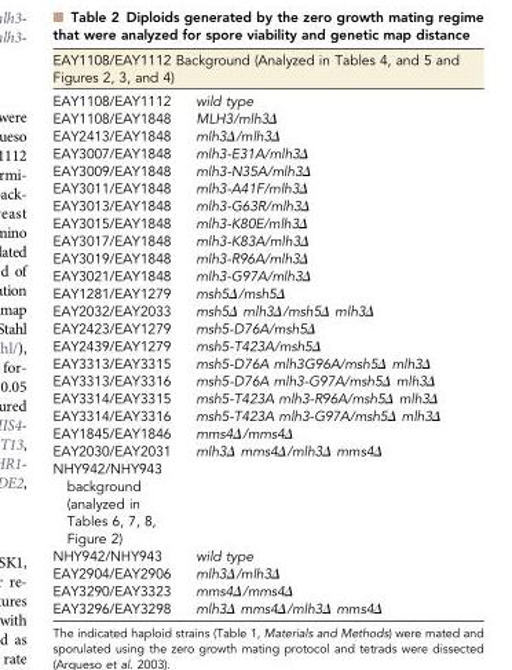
<table><thead><tr><td colspan="2">EAY1108/EAY1112 Background (Analyzed in Tables 4, and 5 and Figures 2, 3, and 4)</td></tr><tr><td>EAY1108/EAY1112</td><td>wild type</td></tr></thead><tbody><tr><td>EAY1108/EAY1848</td><td>MLH3/mlh3Δ</td></tr><tr><td>EAY2413/EAY1848</td><td>mlh3Δ/mlh3Δ</td></tr><tr><td>EAY3007/EAY1848</td><td>mlh3-E31A/mlh3Δ</td></tr><tr><td>EAY3009/EAY1848</td><td>mlh3-N35A/mlh3Δ</td></tr><tr><td>EAY3011/EAY1848</td><td>mlh3-A41F/mlh3Δ</td></tr><tr><td>EAY3013/EAY1848</td><td>mlh3-G63R/mlh3Δ</td></tr><tr><td>EAY3015/EAY1848</td><td>mlh3-K80E/mlh3Δ</td></tr><tr><td>EAY3017/EAY1848</td><td>mlh3-K83A/mlh3Δ</td></tr><tr><td>EAY3019/EAY1848</td><td>mlh3-R96A/mlh3Δ</td></tr><tr><td>EAY3021/EAY1848</td><td>mlh3-G97A/mlh3Δ</td></tr><tr><td>EAY1281/EAY1279</td><td>msh5Δ/msh5Δ</td></tr><tr><td>EAY2032/EAY2033</td><td>msh5Δ mlh3Δ/msh5Δ mlh3Δ</td></tr><tr><td>EAY2423/EAY1279</td><td>msh5-D76A/msh5Δ</td></tr><tr><td>EAY2439/EAY1279</td><td>msh5-T423A/msh5Δ</td></tr><tr><td>EAY3313/EAY3315</td><td>msh5-D76A mlh3G96A/msh5Δ mlh3Δ</td></tr><tr><td>EAY3313/EAY3316</td><td>msh5-D76A mlh3-G97A/msh5Δ mlh3Δ</td></tr><tr><td>EAY3314/EAY3315</td><td>msh5-T423A mlh3-R96A/msh5Δ mlh3Δ</td></tr><tr><td>EAY3314/EAY3316</td><td>msh5-T423A mlh3-G97A/msh5Δ mlh3Δ</td></tr><tr><td>EAY1845/EAY1846</td><td>mms4Δ/mms4Δ</td></tr><tr><td>EAY2030/EAY2031</td><td>mlh3Δ mms4Δ/mlh3Δ mms4Δ</td></tr><tr><td colspan="2">NHY942/NHY943 background (analyzed in Tables 6, 7, 8, Figure 2)</td></tr><tr><td>NHY942/NHY943</td><td>wild type</td></tr><tr><td>EAY2904/EAY2906</td><td>mlh3Δ/mlh3Δ</td></tr><tr><td>EAY3290/EAY3323</td><td>mms4Δ/mms4Δ</td></tr><tr><td>EAY3296/EAY3298</td><td>mlh3Δ mms4Δ/mlh3Δ mms4Δ</td></tr></tbody></table>